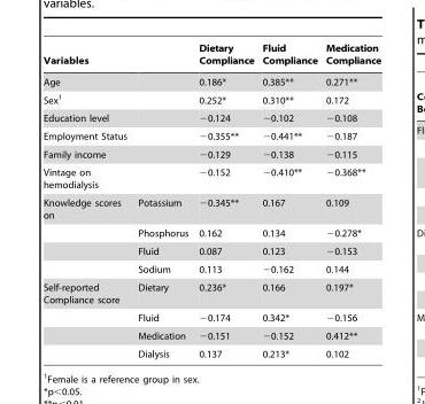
<table><thead><tr><td>Variables</td><td></td><td>Dietary Compliance</td><td>Fluid Compliance</td><td>Medication Compliance</td></tr></thead><tbody><tr><td>Age</td><td></td><td>0.186*</td><td>0.385**</td><td>0.271**</td></tr><tr><td>Sex<sup>1</sup></td><td></td><td>0.252*</td><td>0.310**</td><td>0.172</td></tr><tr><td>Education level</td><td></td><td>−0.124</td><td>−0.102</td><td>−0.108</td></tr><tr><td>Employment Status</td><td></td><td>−0.355**</td><td>−0.441**</td><td>−0.187</td></tr><tr><td>Family income</td><td></td><td>−0.129</td><td>−0.138</td><td>−0.115</td></tr><tr><td>Vintage on hemodialysis</td><td></td><td>−0.152</td><td>−0.410**</td><td>−0.368**</td></tr><tr><td rowspan="4">Knowledge scores on</td><td>Potassium</td><td>−0.345**</td><td>0.167</td><td>0.109</td></tr><tr><td>Phosphorus</td><td>0.162</td><td>0.134</td><td>−0.278*</td></tr><tr><td>Fluid</td><td>0.087</td><td>0.123</td><td>−0.153</td></tr><tr><td>Sodium</td><td>0.113</td><td>−0.162</td><td>0.144</td></tr><tr><td rowspan="4">Self-reported Compliance score</td><td>Dietary</td><td>0.236*</td><td>0.166</td><td>0.197*</td></tr><tr><td>Fluid</td><td>−0.174</td><td>0.342*</td><td>−0.156</td></tr><tr><td>Medication</td><td>−0.151</td><td>−0.152</td><td>0.412**</td></tr><tr><td>Dialysis</td><td>0.137</td><td>0.213*</td><td>0.102</td></tr></tbody></table>